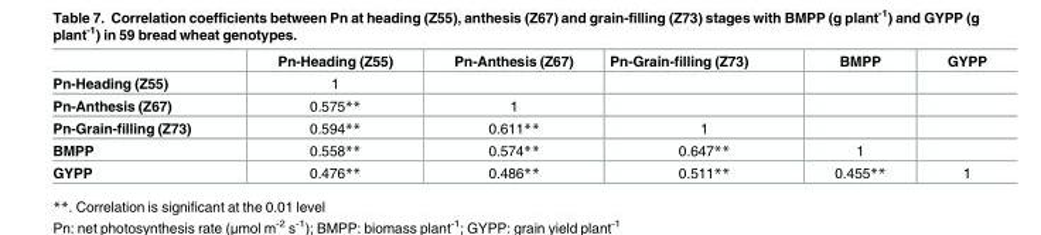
<table><thead><tr><td></td><td>Pn-Heading (Z55)</td><td>Pn-Anthesis (Z67)</td><td>Pn-Grain-filling (Z73)</td><td>BMPP</td><td>GYPP</td></tr></thead><tbody><tr><td>Pn-Heading (Z55)</td><td>1</td><td></td><td></td><td></td><td></td></tr><tr><td>Pn-Anthesis (Z67)</td><td>0.575**</td><td>1</td><td></td><td></td><td></td></tr><tr><td>Pn-Grain-filling (Z73)</td><td>0.594**</td><td>0.611**</td><td>1</td><td></td><td></td></tr><tr><td>BMPP</td><td>0.558**</td><td>0.574**</td><td>0.647**</td><td>1</td><td></td></tr><tr><td>GYPP</td><td>0.476**</td><td>0.486**</td><td>0.511**</td><td>0.455**</td><td>1</td></tr></tbody></table>